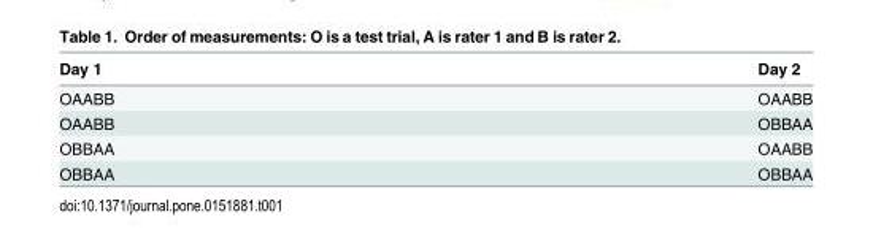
<table><thead><tr><td>Day 1</td><td>Day 2</td></tr></thead><tbody><tr><td>OAABB</td><td>OAABB</td></tr><tr><td>OAABB</td><td>OBBAA</td></tr><tr><td>OBBAA</td><td>OAABB</td></tr><tr><td>OBBAA</td><td>OBBAA</td></tr></tbody></table>